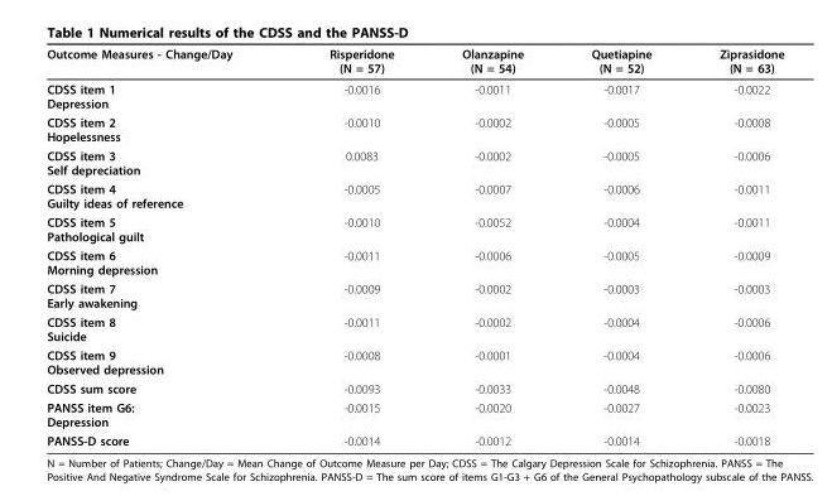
<table><thead><tr><td>Outcome Measures - Change/Day</td><td>Risperidone (N = 57)</td><td>Olanzapine (N = 54)</td><td>Quetiapine (N = 52)</td><td>Ziprasidone (N = 63)</td></tr></thead><tbody><tr><td>CDSS item 1 Depression</td><td>-0.0016</td><td>-0.0011</td><td>-0.0017</td><td>-0.0022</td></tr><tr><td>CDSS item 2 Hopelessness</td><td>-0.0010</td><td>-0.0002</td><td>-0.0005</td><td>-0.0008</td></tr><tr><td>CDSS item 3 Self depreciation</td><td>0.0083</td><td>-0.0002</td><td>-0.0005</td><td>-0.0006</td></tr><tr><td>CDSS item 4 Guilty ideas of reference</td><td>-0.0005</td><td>-0.0007</td><td>-0.0006</td><td>-0.0011</td></tr><tr><td>CDSS item 5 Pathological guilt</td><td>-0.0010</td><td>-0.0052</td><td>-0.0004</td><td>-0.0011</td></tr><tr><td>CDSS item 6 Morning depression</td><td>-0.0011</td><td>-0.0006</td><td>-0.0005</td><td>-0.0009</td></tr><tr><td>CDSS item 7 Early awakening</td><td>-0.0009</td><td>-0.0002</td><td>-0.0003</td><td>-0.0003</td></tr><tr><td>CDSS item 8 Suicide</td><td>-0.0011</td><td>-0.0002</td><td>-0.0004</td><td>-0.0006</td></tr><tr><td>CDSS item 9 Observed depression</td><td>-0.0008</td><td>-0.0001</td><td>-0.0004</td><td>-0.0006</td></tr><tr><td>CDSS sum score</td><td>-0.0093</td><td>-0.0033</td><td>-0.0048</td><td>-0.0080</td></tr><tr><td>PANSS item G6: Depression</td><td>-0.0015</td><td>-0.0020</td><td>-0.0027</td><td>-0.0023</td></tr><tr><td>PANSS-D score</td><td>-0.0014</td><td>-0.0012</td><td>-0.0014</td><td>-0.0018</td></tr></tbody></table>